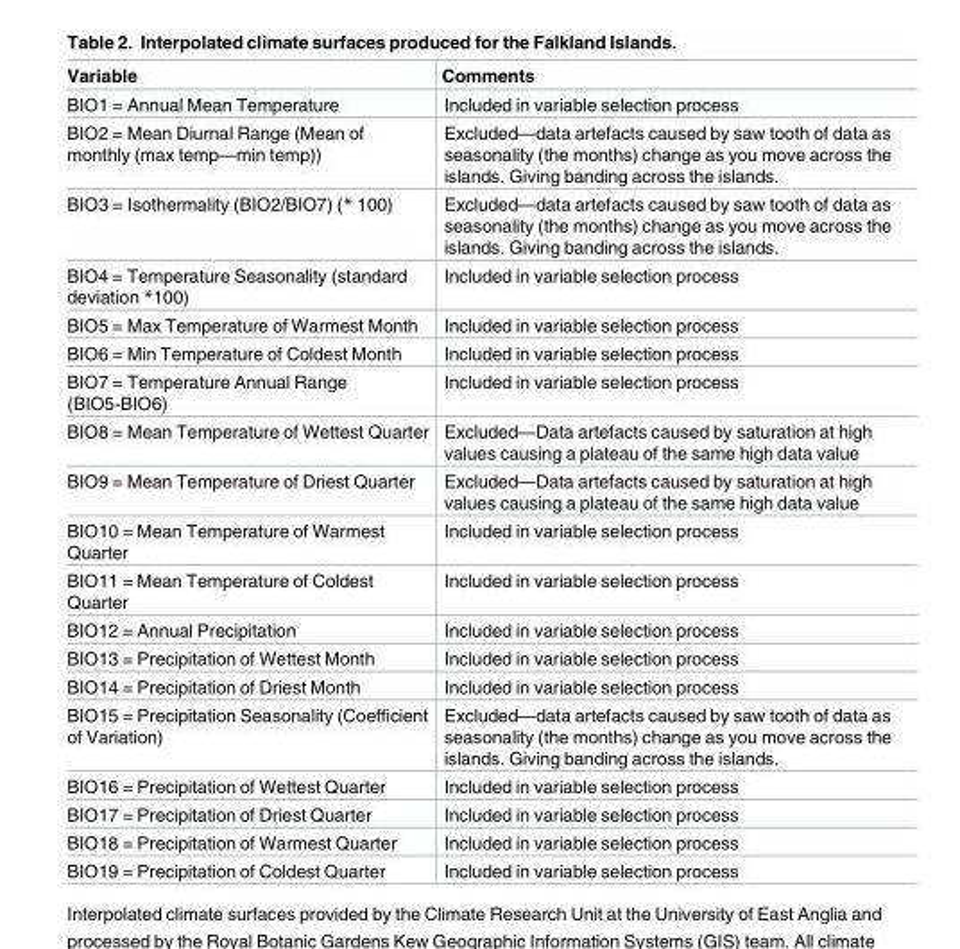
<table><thead><tr><td>Variable</td><td>Comments</td></tr></thead><tbody><tr><td>BIO1 = Annual Mean Temperature</td><td>Included in variable selection process</td></tr><tr><td>BIO2 = Mean Diurnal Range (Mean of monthly (max temp—min temp))</td><td>Excluded—data artefacts caused by saw tooth of data as seasonality (the months) change as you move across the islands. Giving banding across the islands.</td></tr><tr><td>BIO3 = Isothermality (BIO2/BIO7) (* 100)</td><td>Excluded—data artefacts caused by saw tooth of data as seasonality (the months) change as you move across the islands. Giving banding across the islands.</td></tr><tr><td>BIO4 = Temperature Seasonality (standard deviation *100)</td><td>Included in variable selection process</td></tr><tr><td>BIO5 = Max Temperature of Warmest Month</td><td>Included in variable selection process</td></tr><tr><td>BIO6 = Min Temperature of Coldest Month</td><td>Included in variable selection process</td></tr><tr><td>BIO7 = Temperature Annual Range (BIO5-BIO6)</td><td>Included in variable selection process</td></tr><tr><td>BIO8 = Mean Temperature of Wettest Quarter</td><td>Excluded—Data artefacts caused by saturation at high values causing a plateau of the same high data value</td></tr><tr><td>BIO9 = Mean Temperature of Driest Quarter</td><td>Excluded—Data artefacts caused by saturation at high values causing a plateau of the same high data value</td></tr><tr><td>BIO10 = Mean Temperature of Warmest Quarter</td><td>Included in variable selection process</td></tr><tr><td>BIO11 = Mean Temperature of Coldest Quarter</td><td>Included in variable selection process</td></tr><tr><td>BIO12 = Annual Precipitation</td><td>Included in variable selection process</td></tr><tr><td>BIO13 = Precipitation of Wettest Month</td><td>Included in variable selection process</td></tr><tr><td>BIO14 = Precipitation of Driest Month</td><td>Included in variable selection process</td></tr><tr><td>BIO15 = Precipitation Seasonality (Coefficient of Variation)</td><td>Excluded—data artefacts caused by saw tooth of data as seasonality (the months) change as you move across the islands. Giving banding across the islands.</td></tr><tr><td>BIO16 = Precipitation of Wettest Quarter</td><td>Included in variable selection process</td></tr><tr><td>BIO17 = Precipitation of Driest Quarter</td><td>Included in variable selection process</td></tr><tr><td>BIO18 = Precipitation of Warmest Quarter</td><td>Included in variable selection process</td></tr><tr><td>BIO19 = Precipitation of Coldest Quarter</td><td>Included in variable selection process</td></tr></tbody></table>